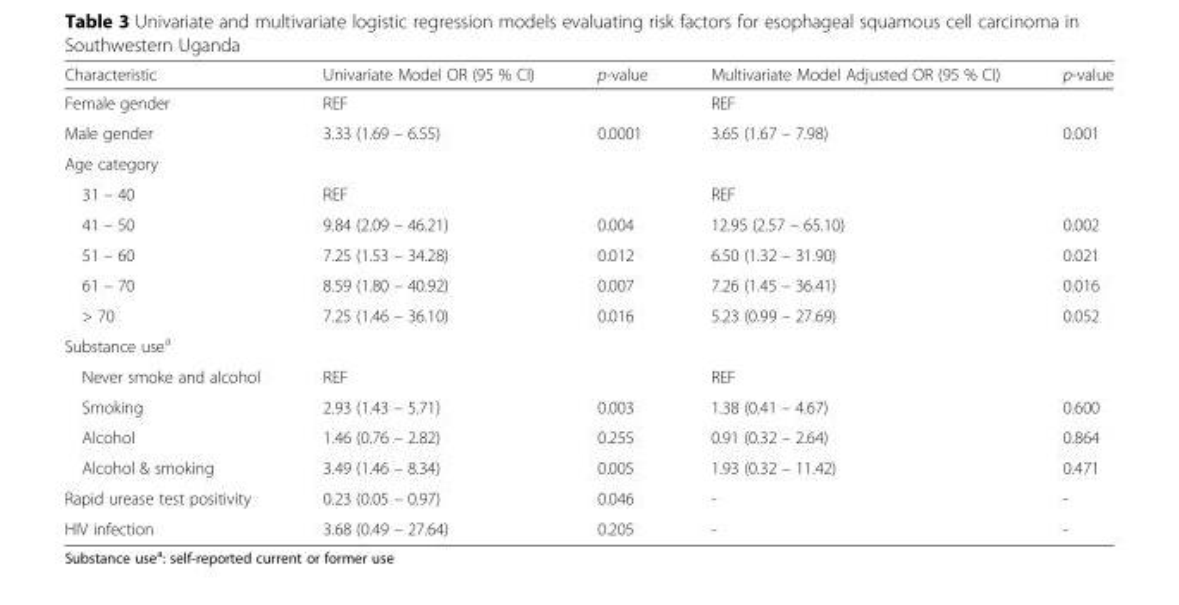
<table><thead><tr><td>Characteristic</td><td>Univariate Model OR (95 % CI)</td><td>p-value</td><td>Multivariate Model Adjusted OR (95 % CI)</td><td>p-value</td></tr></thead><tbody><tr><td>Female gender</td><td>REF</td><td></td><td>REF</td><td></td></tr><tr><td>Male gender</td><td>3.33 (1.69 – 6.55)</td><td>0.0001</td><td>3.65 (1.67 – 7.98)</td><td>0.001</td></tr><tr><td colspan="5">Age category</td></tr><tr><td>31 – 40</td><td>REF</td><td></td><td>REF</td><td></td></tr><tr><td>41 – 50</td><td>9.84 (2.09 – 46.21)</td><td>0.004</td><td>12.95 (2.57 – 65.10)</td><td>0.002</td></tr><tr><td>51 – 60</td><td>7.25 (1.53 – 34.28)</td><td>0.012</td><td>6.50 (1.32 – 31.90)</td><td>0.021</td></tr><tr><td>61 – 70</td><td>8.59 (1.80 – 40.92)</td><td>0.007</td><td>7.26 (1.45 – 36.41)</td><td>0.016</td></tr><tr><td>&gt; 70</td><td>7.25 (1.46 – 36.10)</td><td>0.016</td><td>5.23 (0.99 – 27.69)</td><td>0.052</td></tr><tr><td colspan="5">Substance use<sup>a</sup></td></tr><tr><td>Never smoke and alcohol</td><td>REF</td><td></td><td>REF</td><td></td></tr><tr><td>Smoking</td><td>2.93 (1.43 – 5.71)</td><td>0.003</td><td>1.38 (0.41 – 4.67)</td><td>0.600</td></tr><tr><td>Alcohol</td><td>1.46 (0.76 – 2.82)</td><td>0.255</td><td>0.91 (0.32 – 2.64)</td><td>0.864</td></tr><tr><td>Alcohol &amp; smoking</td><td>3.49 (1.46 – 8.34)</td><td>0.005</td><td>1.93 (0.32 – 11.42)</td><td>0.471</td></tr><tr><td>Rapid urease test positivity</td><td>0.23 (0.05 – 0.97)</td><td>0.046</td><td>-</td><td>-</td></tr><tr><td>HIV infection</td><td>3.68 (0.49 – 27.64)</td><td>0.205</td><td>-</td><td>-</td></tr></tbody></table>